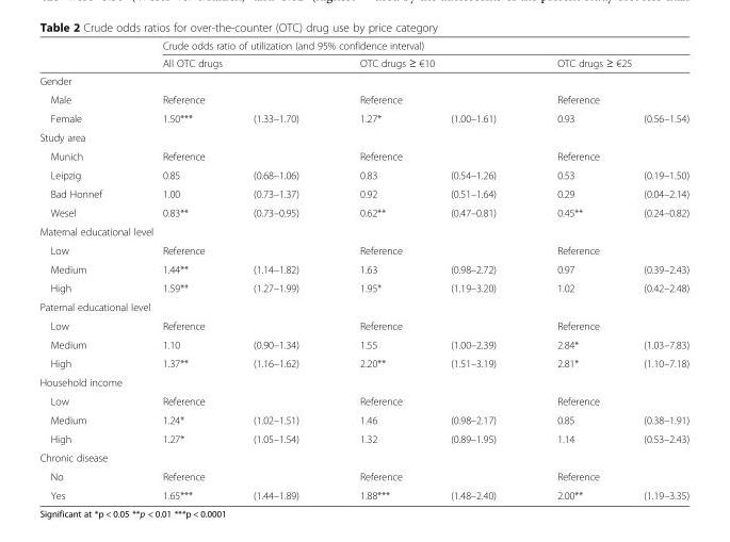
<table><thead><tr><td rowspan="2"></td><td colspan="6">Crude odds ratio of utilization (and 95% confidence interval)</td></tr><tr><td colspan="2">All OTC drugs</td><td colspan="2">OTC drugs ≥ €10</td><td colspan="2">OTC drugs ≥ €25</td></tr><tr><td colspan="7">Gender</td></tr><tr><td rowspan="2">Male Female</td><td colspan="2">Reference</td><td colspan="2">Reference</td><td colspan="2">Reference</td></tr><tr><td>1.50***</td><td>(1.33–1.70)</td><td>1.27*</td><td>(1.00–1.61)</td><td>0.93</td><td>(0.56–1.54)</td></tr></thead><tbody><tr><td colspan="7">Study area</td></tr><tr><td>Munich</td><td colspan="2">Reference</td><td colspan="2">Reference</td><td colspan="2">Reference</td></tr><tr><td>Leipzig</td><td>0.85</td><td>(0.68–1.06)</td><td>0.83</td><td>(0.54–1.26)</td><td>0.53</td><td>(0.19–1.50)</td></tr><tr><td>Bad Honnef</td><td>1.00</td><td>(0.73–1.37)</td><td>0.92</td><td>(0.51–1.64)</td><td>0.29</td><td>(0.04–2.14)</td></tr><tr><td>Wesel</td><td>0.83**</td><td>(0.73–0.95)</td><td>0.62**</td><td>(0.47–0.81)</td><td>0.45**</td><td>(0.24–0.82)</td></tr><tr><td colspan="7">Maternal educational level</td></tr><tr><td>Low</td><td colspan="2">Reference</td><td colspan="2">Reference</td><td colspan="2">Reference</td></tr><tr><td>Medium</td><td>1.44**</td><td>(1.14–1.82)</td><td>1.63</td><td>(0.98–2.72)</td><td>0.97</td><td>(0.39–2.43)</td></tr><tr><td>High</td><td>1.59**</td><td>(1.27–1.99)</td><td>1.95*</td><td>(1.19–3.20)</td><td>1.02</td><td>(0.42–2.48)</td></tr><tr><td colspan="7">Paternal educational level</td></tr><tr><td>Low</td><td colspan="2">Reference</td><td colspan="2">Reference</td><td colspan="2">Reference</td></tr><tr><td>Medium</td><td>1.10</td><td>(0.90–1.34)</td><td>1.55</td><td>(1.00–2.39)</td><td>2.84*</td><td>(1.03–7.83)</td></tr><tr><td>High</td><td>1.37**</td><td>(1.16–1.62)</td><td>2.20**</td><td>(1.51–3.19)</td><td>2.81*</td><td>(1.10–7.18)</td></tr><tr><td colspan="7">Household income</td></tr><tr><td>Low</td><td colspan="2">Reference</td><td colspan="2">Reference</td><td colspan="2">Reference</td></tr><tr><td>Medium</td><td>1.24*</td><td>(1.02–1.51)</td><td>1.46</td><td>(0.98–2.17)</td><td>0.85</td><td>(0.38–1.91)</td></tr><tr><td>High</td><td>1.27*</td><td>(1.05–1.54)</td><td>1.32</td><td>(0.89–1.95)</td><td>1.14</td><td>(0.53–2.43)</td></tr><tr><td colspan="7">Chronic disease</td></tr><tr><td>No</td><td colspan="2">Reference</td><td colspan="2">Reference</td><td colspan="2">Reference</td></tr><tr><td>Yes</td><td>1.65***</td><td>(1.44–1.89)</td><td>1.88***</td><td>(1.48–2.40)</td><td>2.00**</td><td>(1.19–3.35)</td></tr></tbody></table>